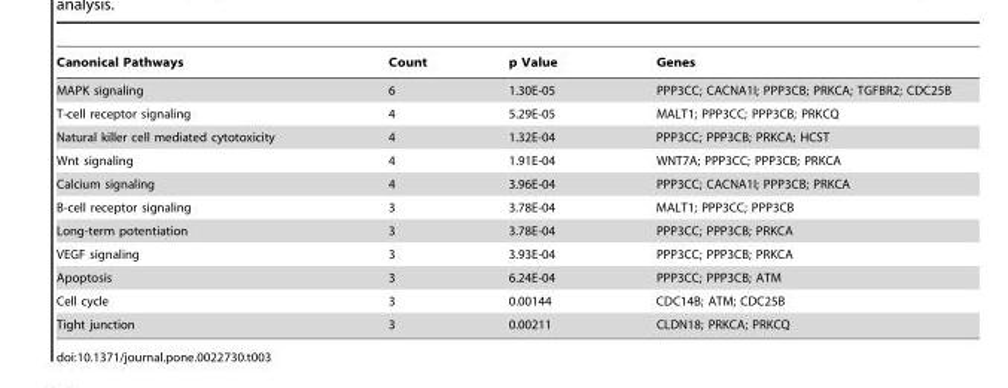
<table><thead><tr><td>Canonical Pathways</td><td>Count</td><td>p Value</td><td>Genes</td></tr></thead><tbody><tr><td>MAPK signaling</td><td>6</td><td>1.30E-05</td><td>PPP3CC; CACNA1I; PPP3CB; PRKCA; TGFBR2; CDC25B</td></tr><tr><td>T-cell receptor signaling</td><td>4</td><td>5.29E-05</td><td>MALT1; PPP3CC; PPP3CB; PRKCQ</td></tr><tr><td>Natural killer cell mediated cytotoxicity</td><td>4</td><td>1.32E-04</td><td>PPP3CC; PPP3CB; PRKCA; HCST</td></tr><tr><td>Wnt signaling</td><td>4</td><td>1.91E-04</td><td>WNT7A; PPP3CC; PPP3CB; PRKCA</td></tr><tr><td>Calcium signaling</td><td>4</td><td>3.96E-04</td><td>PPP3CC; CACNA1I; PPP3CB; PRKCA</td></tr><tr><td>B-cell receptor signaling</td><td>3</td><td>3.78E-04</td><td>MALT1; PPP3CC; PPP3CB</td></tr><tr><td>Long-term potentiation</td><td>3</td><td>3.78E-04</td><td>PPP3CC; PPP3CB; PRKCA</td></tr><tr><td>VEGF signaling</td><td>3</td><td>3.93E-04</td><td>PPP3CC; PPP3CB; PRKCA</td></tr><tr><td>Apoptosis</td><td>3</td><td>6.24E-04</td><td>PPP3CC; PPP3CB; ATM</td></tr><tr><td>Cell cycle</td><td>3</td><td>0.00144</td><td>CDC14B; ATM; CDC25B</td></tr><tr><td>Tight junction</td><td>3</td><td>0.00211</td><td>CLDN18; PRKCA; PRKCQ</td></tr></tbody></table>